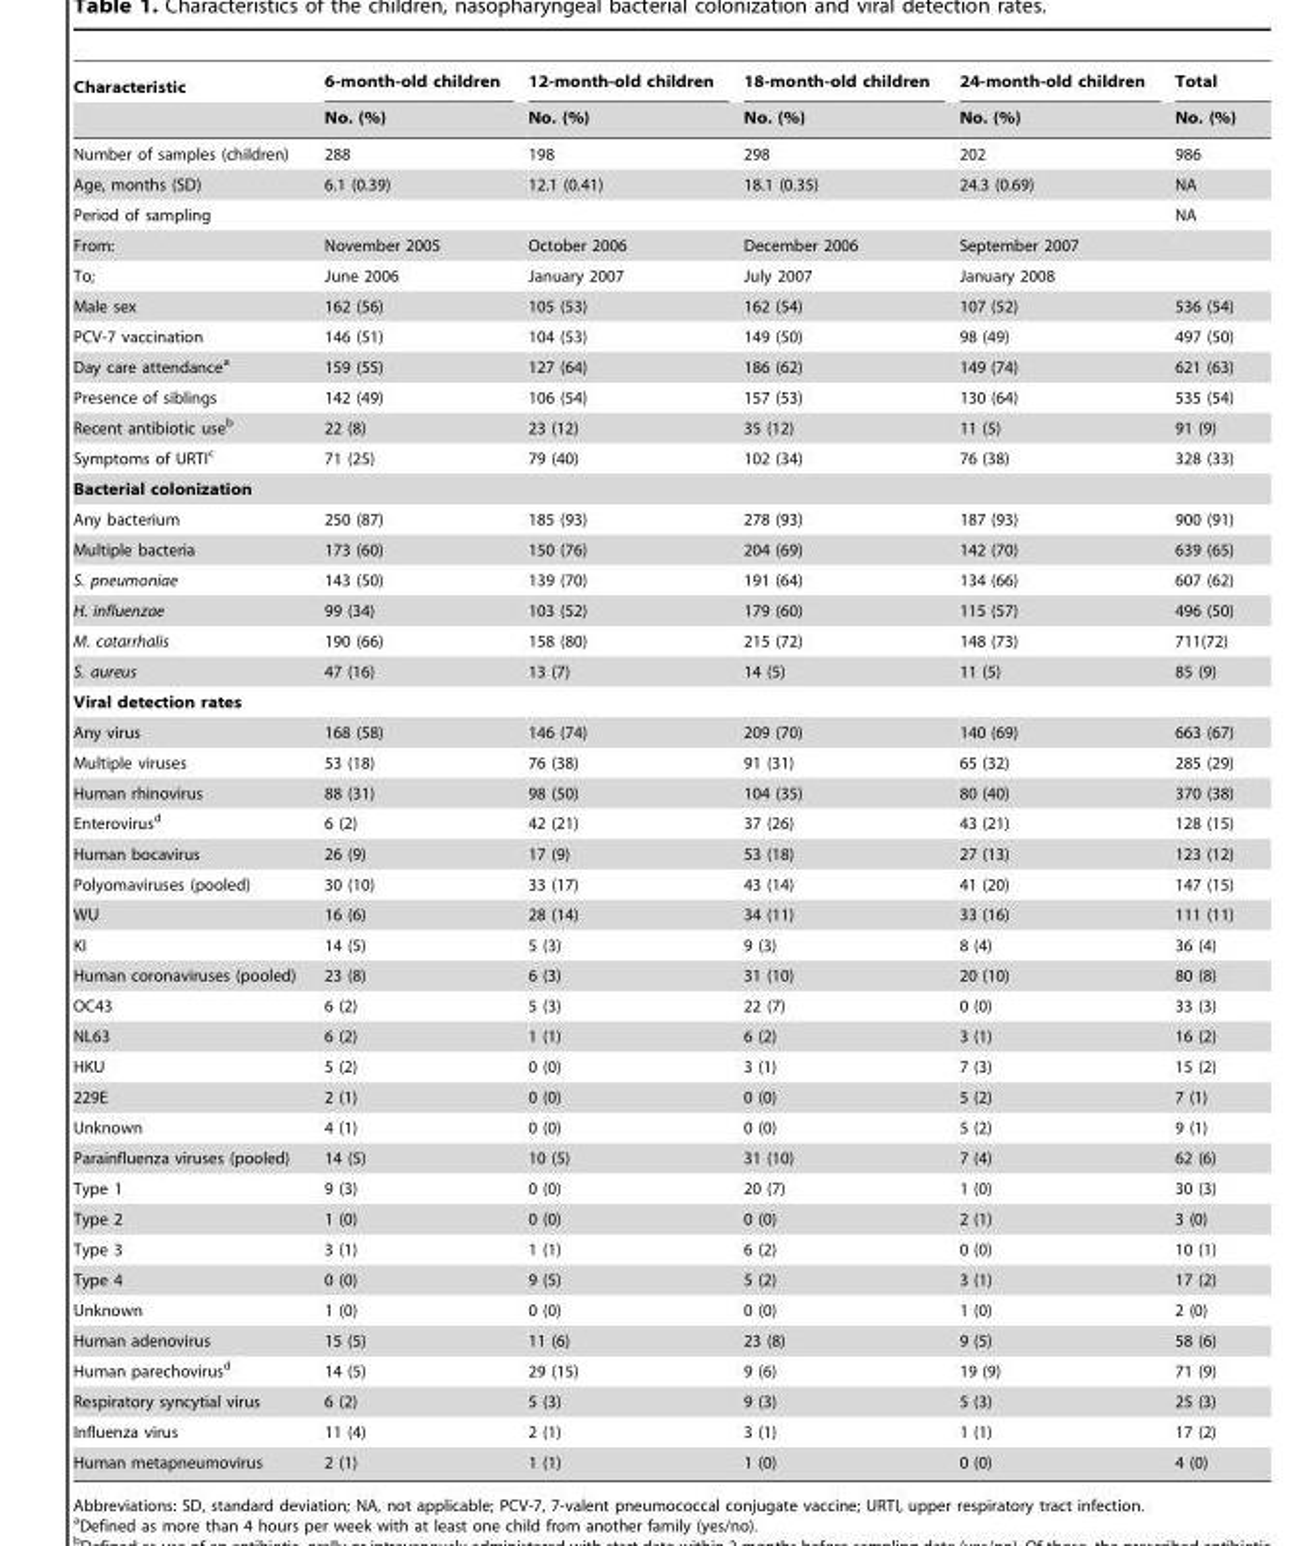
<table><thead><tr><td rowspan="2">Characteristic</td><td rowspan="2">6-month-old children No. (%)</td><td rowspan="2">12-month-old children No. (%)</td><td rowspan="2">18-month-old children No. (%)</td><td rowspan="2">24-month-old children No. (%)</td><td rowspan="2">Total No. (%)</td></tr><tr></tr></thead><tbody><tr><td>Number of samples (children)</td><td>288</td><td>198</td><td>298</td><td>202</td><td>986</td></tr><tr><td>Age, months (SD)</td><td>6.1 (0.39)</td><td>12.1 (0.41)</td><td>18.1 (0.35)</td><td>24.3 (0.69)</td><td>NA</td></tr><tr><td>Period of sampling</td><td></td><td></td><td></td><td></td><td>NA</td></tr><tr><td>From:</td><td>November 2005</td><td>October 2006</td><td>December 2006</td><td>September 2007</td><td></td></tr><tr><td>To;</td><td>June 2006</td><td>January 2007</td><td>July 2007</td><td>January 2008</td><td></td></tr><tr><td>Male sex</td><td>162 (56)</td><td>105 (53)</td><td>162 (54)</td><td>107 (52)</td><td>536 (54)</td></tr><tr><td>PCV-7 vaccination</td><td>146 (51)</td><td>104 (53)</td><td>149 (50)</td><td>98 (49)</td><td>497 (50)</td></tr><tr><td>Day care attendance<sup>a</sup></td><td>159 (55)</td><td>127 (64)</td><td>186 (62)</td><td>149 (74)</td><td>621 (63)</td></tr><tr><td>Presence of siblings</td><td>142 (49)</td><td>106 (54)</td><td>157 (53)</td><td>130 (64)</td><td>535 (54)</td></tr><tr><td>Recent antibiotic use<sup>b</sup></td><td>22 (8)</td><td>23 (12)</td><td>35 (12)</td><td>11 (5)</td><td>91 (9)</td></tr><tr><td>Symptoms of URTI<sup>c</sup></td><td>71 (25)</td><td>79 (40)</td><td>102 (34)</td><td>76 (38)</td><td>328 (33)</td></tr><tr><td colspan="6">Bacterial colonization</td></tr><tr><td>Any bacterium</td><td>250 (87)</td><td>185 (93)</td><td>278 (93)</td><td>187 (93)</td><td>900 (91)</td></tr><tr><td>Multiple bacteria</td><td>173 (60)</td><td>150 (76)</td><td>204 (69)</td><td>142 (70)</td><td>639 (65)</td></tr><tr><td>S. pneumoniae</td><td>143 (50)</td><td>139 (70)</td><td>191 (64)</td><td>134 (66)</td><td>607 (62)</td></tr><tr><td>H. influenzae</td><td>99 (34)</td><td>103 (52)</td><td>179 (60)</td><td>115 (57)</td><td>496 (50)</td></tr><tr><td>M. catarrhalis</td><td>190 (66)</td><td>158 (80)</td><td>215 (72)</td><td>148 (73)</td><td>711(72)</td></tr><tr><td>S. aureus</td><td>47 (16)</td><td>13 (7)</td><td>14 (5)</td><td>11 (5)</td><td>85 (9)</td></tr><tr><td colspan="6">Viral detection rates</td></tr><tr><td>Any virus</td><td>168 (58)</td><td>146 (74)</td><td>209 (70)</td><td>140 (69)</td><td>663 (67)</td></tr><tr><td>Multiple viruses</td><td>53 (18)</td><td>76 (38)</td><td>91 (31)</td><td>65 (32)</td><td>285 (29)</td></tr><tr><td>Human rhinovirus</td><td>88 (31)</td><td>98 (50)</td><td>104 (35)</td><td>80 (40)</td><td>370 (38)</td></tr><tr><td>Enterovirus<sup>d</sup></td><td>6 (2)</td><td>42 (21)</td><td>37 (26)</td><td>43 (21)</td><td>128 (15)</td></tr><tr><td>Human bocavirus</td><td>26 (9)</td><td>17 (9)</td><td>53 (18)</td><td>27 (13)</td><td>123 (12)</td></tr><tr><td>Polyomaviruses (pooled)</td><td>30 (10)</td><td>33 (17)</td><td>43 (14)</td><td>41 (20)</td><td>147 (15)</td></tr><tr><td>WU</td><td>16 (6)</td><td>28 (14)</td><td>34 (11)</td><td>33 (16)</td><td>111 (11)</td></tr><tr><td>KI</td><td>14 (5)</td><td>5 (3)</td><td>9 (3)</td><td>8 (4)</td><td>36 (4)</td></tr><tr><td>Human coronaviruses (pooled)</td><td>23 (8)</td><td>6 (3)</td><td>31 (10)</td><td>20 (10)</td><td>80 (8)</td></tr><tr><td>OC43</td><td>6 (2)</td><td>5 (3)</td><td>22 (7)</td><td>0 (0)</td><td>33 (3)</td></tr><tr><td>NL63</td><td>6 (2)</td><td>1 (1)</td><td>6 (2)</td><td>3 (1)</td><td>16 (2)</td></tr><tr><td>HKU</td><td>5 (2)</td><td>0 (0)</td><td>3 (1)</td><td>7 (3)</td><td>15 (2)</td></tr><tr><td>229E</td><td>2 (1)</td><td>0 (0)</td><td>0 (0)</td><td>5 (2)</td><td>7 (1)</td></tr><tr><td>Unknown</td><td>4 (1)</td><td>0 (0)</td><td>0 (0)</td><td>5 (2)</td><td>9 (1)</td></tr><tr><td>Parainfluenza viruses (pooled)</td><td>14 (5)</td><td>10 (5)</td><td>31 (10)</td><td>7 (4)</td><td>62 (6)</td></tr><tr><td>Type 1</td><td>9 (3)</td><td>0 (0)</td><td>20 (7)</td><td>1 (0)</td><td>30 (3)</td></tr><tr><td>Type 2</td><td>1 (0)</td><td>0 (0)</td><td>0 (0)</td><td>2 (1)</td><td>3 (0)</td></tr><tr><td>Type 3</td><td>3 (1)</td><td>1 (1)</td><td>6 (2)</td><td>0 (0)</td><td>10 (1)</td></tr><tr><td>Type 4</td><td>0 (0)</td><td>9 (5)</td><td>5 (2)</td><td>3 (1)</td><td>17 (2)</td></tr><tr><td>Unknown</td><td>1 (0)</td><td>0 (0)</td><td>0 (0)</td><td>1 (0)</td><td>2 (0)</td></tr><tr><td>Human adenovirus</td><td>15 (5)</td><td>11 (6)</td><td>23 (8)</td><td>9 (5)</td><td>58 (6)</td></tr><tr><td>Human parechovirus<sup>d</sup></td><td>14 (5)</td><td>29 (15)</td><td>9 (6)</td><td>19 (9)</td><td>71 (9)</td></tr><tr><td>Respiratory syncytial virus</td><td>6 (2)</td><td>5 (3)</td><td>9 (3)</td><td>5 (3)</td><td>25 (3)</td></tr><tr><td>Influenza virus</td><td>11 (4)</td><td>2 (1)</td><td>3 (1)</td><td>1 (1)</td><td>17 (2)</td></tr><tr><td>Human metapneumovirus</td><td>2 (1)</td><td>1 (1)</td><td>1 (0)</td><td>0 (0)</td><td>4 (0)</td></tr></tbody></table>